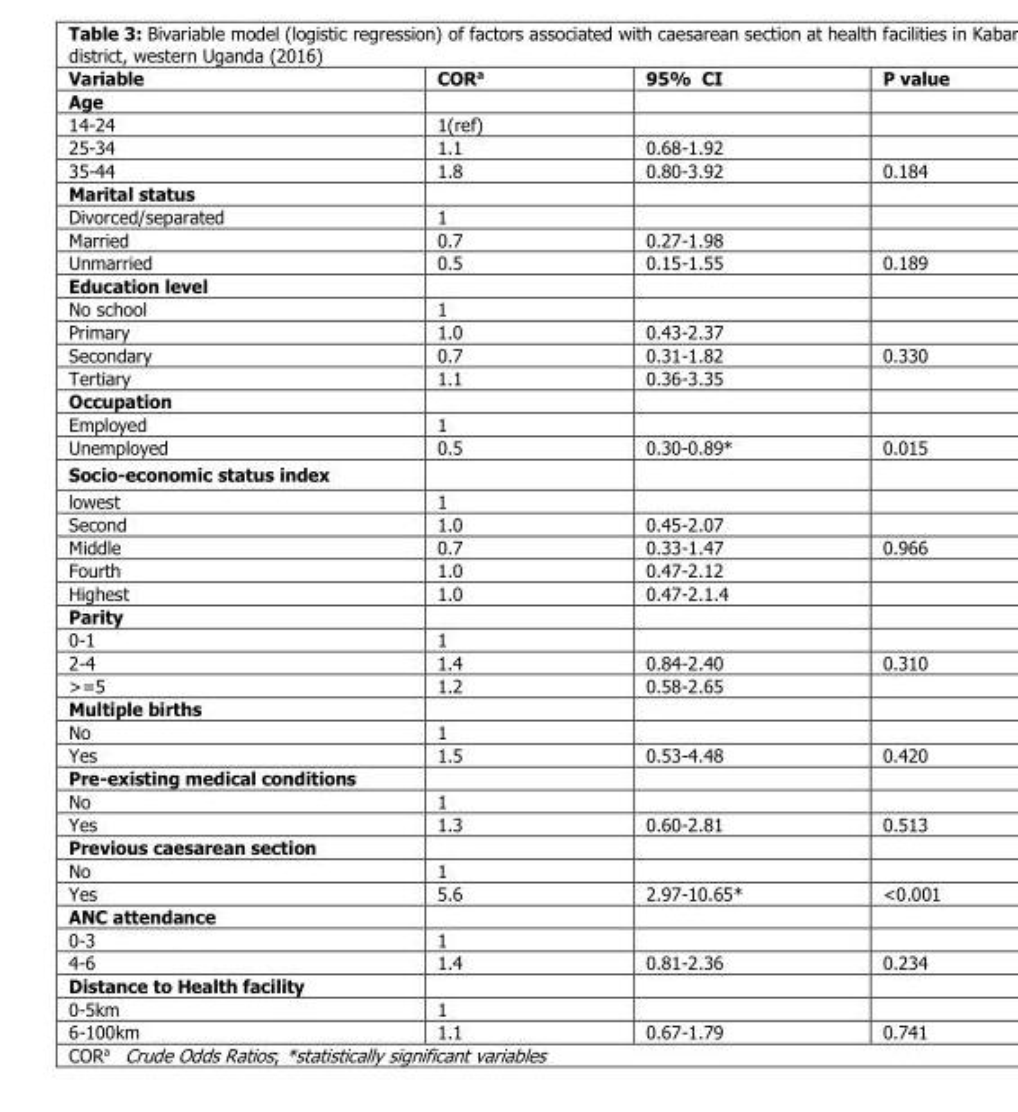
<table><thead><tr><td>Variable</td><td>COR<sup>a</sup></td><td>95% CI</td><td>P value</td></tr></thead><tbody><tr><td colspan="4">Age</td></tr><tr><td>14-24</td><td>1(ref)</td><td></td><td></td></tr><tr><td>25-34</td><td>1.1</td><td>0.68-1.92</td><td></td></tr><tr><td>35-44</td><td>1.8</td><td>0.80-3.92</td><td>0.184</td></tr><tr><td colspan="4">Marital status</td></tr><tr><td>Divorced/separated</td><td>1</td><td></td><td></td></tr><tr><td>Married</td><td>0.7</td><td>0.27-1.98</td><td></td></tr><tr><td>Unmarried</td><td>0.5</td><td>0.15-1.55</td><td>0.189</td></tr><tr><td colspan="4">Education level</td></tr><tr><td>No school</td><td>1</td><td></td><td></td></tr><tr><td>Primary</td><td>1.0</td><td>0.43-2.37</td><td></td></tr><tr><td>Secondary</td><td>0.7</td><td>0.31-1.82</td><td>0.330</td></tr><tr><td>Tertiary</td><td>1.1</td><td>0.36-3.35</td><td></td></tr><tr><td colspan="4">Occupation</td></tr><tr><td>Employed</td><td>1</td><td></td><td></td></tr><tr><td>Unemployed</td><td>0.5</td><td>0.30-0.89*</td><td>0.015</td></tr><tr><td colspan="4">Socio-economic status index</td></tr><tr><td>lowest</td><td>1</td><td></td><td></td></tr><tr><td>Second</td><td>1.0</td><td>0.45-2.07</td><td></td></tr><tr><td>Middle</td><td>0.7</td><td>0.33-1.47</td><td>0.966</td></tr><tr><td>Fourth</td><td>1.0</td><td>0.47-2.12</td><td></td></tr><tr><td>Highest</td><td>1.0</td><td>0.47-2.1.4</td><td></td></tr><tr><td colspan="4">Parity</td></tr><tr><td>0-1</td><td>1</td><td></td><td></td></tr><tr><td>2-4</td><td>1.4</td><td>0.84-2.40</td><td>0.310</td></tr><tr><td>&gt;=5</td><td>1.2</td><td>0.58-2.65</td><td></td></tr><tr><td colspan="4">Multiple births</td></tr><tr><td>No</td><td>1</td><td></td><td></td></tr><tr><td>Yes</td><td>1.5</td><td>0.53-4.48</td><td>0.420</td></tr><tr><td colspan="4">Pre-existing medical conditions</td></tr><tr><td>No</td><td>1</td><td></td><td></td></tr><tr><td>Yes</td><td>1.3</td><td>0.60-2.81</td><td>0.513</td></tr><tr><td colspan="4">Previous caesarean section</td></tr><tr><td>No</td><td>1</td><td></td><td></td></tr><tr><td>Yes</td><td>5.6</td><td>2.97-10.65*</td><td>&lt;0.001</td></tr><tr><td colspan="4">ANC attendance</td></tr><tr><td>0-3</td><td>1</td><td></td><td></td></tr><tr><td>4-6</td><td>1.4</td><td>0.81-2.36</td><td>0.234</td></tr><tr><td colspan="4">Distance to Health facility</td></tr><tr><td>0-5km</td><td>1</td><td></td><td></td></tr><tr><td>6-100km</td><td>1.1</td><td>0.67-1.79</td><td>0.741</td></tr></tbody></table>